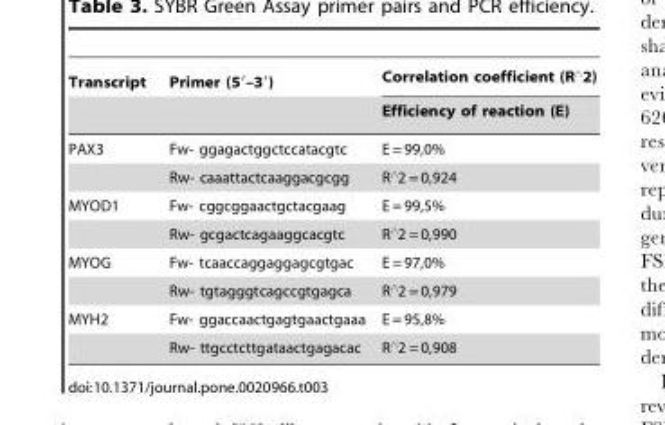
<table><thead><tr><td rowspan="2">Transcript</td><td rowspan="2">Primer (5′–3′)</td><td rowspan="2">Correlation coefficient (R‘2) Efficiency of reaction (E)</td></tr><tr></tr></thead><tbody><tr><td rowspan="2">PAX3</td><td>Fw- ggagactggctccatacgtc</td><td>E = 99,0%</td></tr><tr><td>Rw- caaattactcaaggacgcgg</td><td>R‘2 = 0,924</td></tr><tr><td rowspan="2">MYOD1</td><td>Fw- cggcggaactgctacgaag</td><td>E = 99,5%</td></tr><tr><td>Rw- gcgactcagaaggcacgtc</td><td>R‘2 = 0,990</td></tr><tr><td rowspan="2">MYOG</td><td>Fw- tcaaccaggaggagcgtgac</td><td>E = 97,0%</td></tr><tr><td>Rw- tgtagggtcagccgtgagca</td><td>R‘2 = 0,979</td></tr><tr><td rowspan="2">MYH2</td><td>Fw- ggaccaactgagtgaactgaaa</td><td>E = 95,8%</td></tr><tr><td>Rw- ttgcctcttgataactgagacac</td><td>R‘2 = 0,908</td></tr></tbody></table>